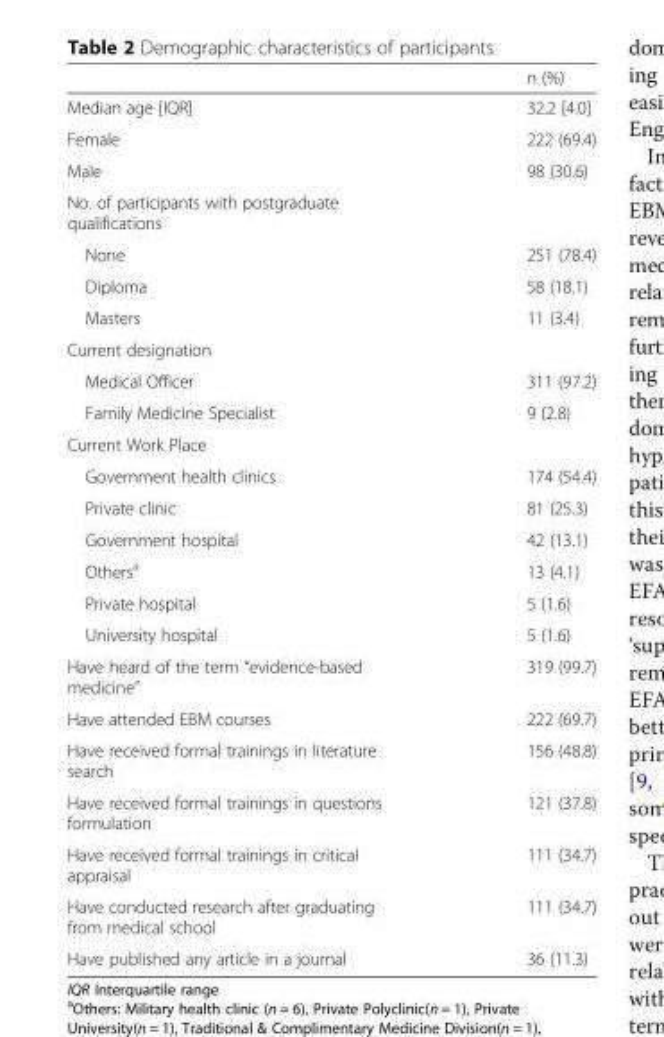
<table><thead><tr><td></td><td>n (%)</td></tr></thead><tbody><tr><td>Median age [IQR]</td><td>32.2 [4.0]</td></tr><tr><td>Female</td><td>222 (69.4)</td></tr><tr><td>Male</td><td>98 (30.6)</td></tr><tr><td colspan="2">No. of participants with postgraduate qualifications</td></tr><tr><td>None</td><td>251 (78.4)</td></tr><tr><td>Diploma</td><td>58 (18.1)</td></tr><tr><td>Masters</td><td>11 (3.4)</td></tr><tr><td colspan="2">Current designation</td></tr><tr><td>Medical Officer</td><td>311 (97.2)</td></tr><tr><td>Family Medicine Specialist</td><td>9 (2.8)</td></tr><tr><td colspan="2">Current Work Place</td></tr><tr><td>Government health clinics</td><td>174 (54.4)</td></tr><tr><td>Private clinic</td><td>81 (25.3)</td></tr><tr><td>Government hospital</td><td>42 (13.1)</td></tr><tr><td>Others<sup>a</sup></td><td>13 (4.1)</td></tr><tr><td>Private hospital</td><td>5 (1.6)</td></tr><tr><td>University hospital</td><td>5 (1.6)</td></tr><tr><td>Have heard of the term “evidence-based medicine”</td><td>319 (99.7)</td></tr><tr><td>Have attended EBM courses</td><td>222 (69.7)</td></tr><tr><td>Have received formal trainings in literature search</td><td>156 (48.8)</td></tr><tr><td>Have received formal trainings in questions formulation</td><td>121 (37.8)</td></tr><tr><td>Have received formal trainings in critical appraisal</td><td>111 (34.7)</td></tr><tr><td>Have conducted research after graduating from medical school</td><td>111 (34.7)</td></tr><tr><td>Have published any article in a journal</td><td>36 (11.3)</td></tr></tbody></table>